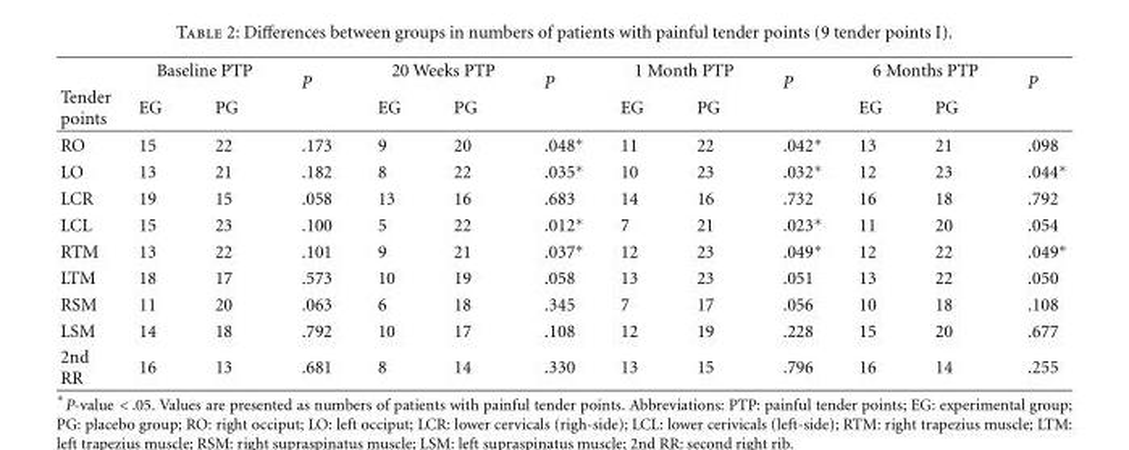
<table><thead><tr><td rowspan="2">Tender points</td><td colspan="2">Baseline PTP</td><td rowspan="2">P</td><td colspan="2">20 Weeks PTP</td><td rowspan="2">P</td><td colspan="2">1 Month PTP</td><td rowspan="2">P</td><td colspan="2">6 Months PTP</td><td rowspan="2">P</td></tr><tr><td>EG</td><td>PG</td><td>EG</td><td>PG</td><td>EG</td><td>PG</td><td>EG</td><td>PG</td></tr></thead><tbody><tr><td>RO</td><td>15</td><td>22</td><td>.173</td><td>9</td><td>20</td><td>.048∗</td><td>11</td><td>22</td><td>.042∗</td><td>13</td><td>21</td><td>.098</td></tr><tr><td>LO</td><td>13</td><td>21</td><td>.182</td><td>8</td><td>22</td><td>.035∗</td><td>10</td><td>23</td><td>.032∗</td><td>12</td><td>23</td><td>.044∗</td></tr><tr><td>LCR</td><td>19</td><td>15</td><td>.058</td><td>13</td><td>16</td><td>.683</td><td>14</td><td>16</td><td>.732</td><td>16</td><td>18</td><td>.792</td></tr><tr><td>LCL</td><td>15</td><td>23</td><td>.100</td><td>5</td><td>22</td><td>.012∗</td><td>7</td><td>21</td><td>.023∗</td><td>11</td><td>20</td><td>.054</td></tr><tr><td>RTM</td><td>13</td><td>22</td><td>.101</td><td>9</td><td>21</td><td>.037∗</td><td>12</td><td>23</td><td>.049∗</td><td>12</td><td>22</td><td>.049∗</td></tr><tr><td>LTM</td><td>18</td><td>17</td><td>.573</td><td>10</td><td>19</td><td>.058</td><td>13</td><td>23</td><td>.051</td><td>13</td><td>22</td><td>.050</td></tr><tr><td>RSM</td><td>11</td><td>20</td><td>.063</td><td>6</td><td>18</td><td>.345</td><td>7</td><td>17</td><td>.056</td><td>10</td><td>18</td><td>.108</td></tr><tr><td>LSM</td><td>14</td><td>18</td><td>.792</td><td>10</td><td>17</td><td>.108</td><td>12</td><td>19</td><td>.228</td><td>15</td><td>20</td><td>.677</td></tr><tr><td>2nd RR</td><td>16</td><td>13</td><td>.681</td><td>8</td><td>14</td><td>.330</td><td>13</td><td>15</td><td>.796</td><td>16</td><td>14</td><td>.255</td></tr></tbody></table>